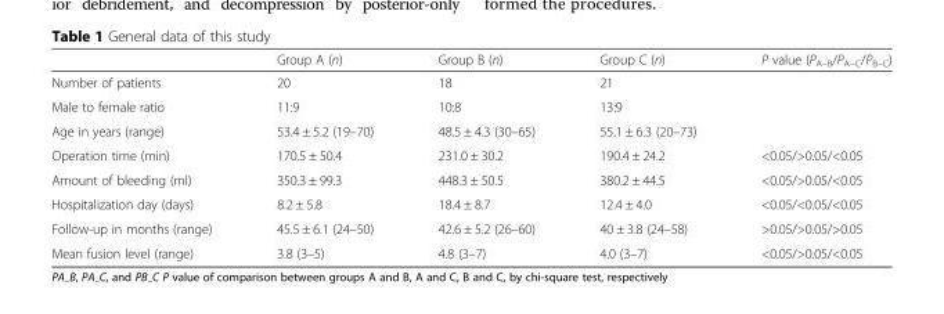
<table><thead><tr><td></td><td>Group A (n)</td><td>Group B (n)</td><td>Group C (n)</td><td>P value (P<sub>A–B</sub>/P<sub>A–C</sub>/P<sub>B–C</sub>)</td></tr></thead><tbody><tr><td>Number of patients</td><td>20</td><td>18</td><td>21</td><td></td></tr><tr><td>Male to female ratio</td><td>11:9</td><td>10:8</td><td>13:9</td><td></td></tr><tr><td>Age in years (range)</td><td>53.4 ± 5.2 (19–70)</td><td>48.5 ± 4.3 (30–65)</td><td>55.1 ± 6.3 (20–73)</td><td></td></tr><tr><td>Operation time (min)</td><td>170.5 ± 50.4</td><td>231.0 ± 30.2</td><td>190.4 ± 24.2</td><td>&lt;0.05/&gt;0.05/&lt;0.05</td></tr><tr><td>Amount of bleeding (ml)</td><td>350.3 ± 99.3</td><td>448.3 ± 50.5</td><td>380.2 ± 44.5</td><td>&lt;0.05/&gt;0.05/&lt;0.05</td></tr><tr><td>Hospitalization day (days)</td><td>8.2 ± 5.8</td><td>18.4 ± 8.7</td><td>12.4 ± 4.0</td><td>&lt;0.05/&lt;0.05/&lt;0.05</td></tr><tr><td>Follow-up in months (range)</td><td>45.5 ± 6.1 (24–50)</td><td>42.6 ± 5.2 (26–60)</td><td>40 ± 3.8 (24–58)</td><td>&gt;0.05/&gt;0.05/&gt;0.05</td></tr><tr><td>Mean fusion level (range)</td><td>3.8 (3–5)</td><td>4.8 (3–7)</td><td>4.0 (3–7)</td><td>&lt;0.05/&gt;0.05/&lt;0.05</td></tr></tbody></table>